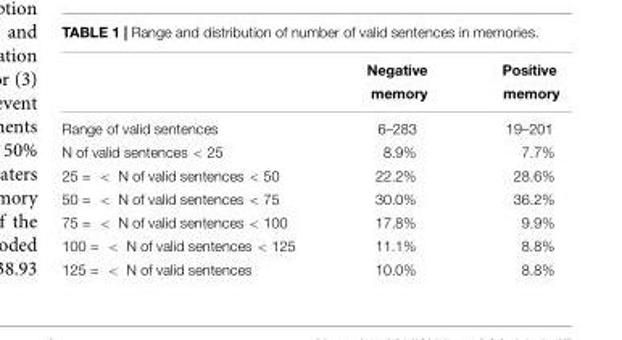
<table><thead><tr><td rowspan="2"></td><td rowspan="2">Negative memory</td><td rowspan="2">Positive memory</td></tr><tr></tr></thead><tbody><tr><td>Range of valid sentences</td><td>6–283</td><td>19–201</td></tr><tr><td>N of valid sentences &lt; 25</td><td>8.9%</td><td>7.7%</td></tr><tr><td>25 = &lt; N of valid sentences &lt; 50</td><td>22.2%</td><td>28.6%</td></tr><tr><td>50 = &lt; N of valid sentences &lt; 75</td><td>30.0%</td><td>36.2%</td></tr><tr><td>75 = &lt; N of valid sentences &lt; 100</td><td>17.8%</td><td>9.9%</td></tr><tr><td>100 = &lt; N of valid sentences &lt; 125</td><td>11.1%</td><td>8.8%</td></tr><tr><td>125 = &lt; N of valid sentences</td><td>10.0%</td><td>8.8%</td></tr></tbody></table>